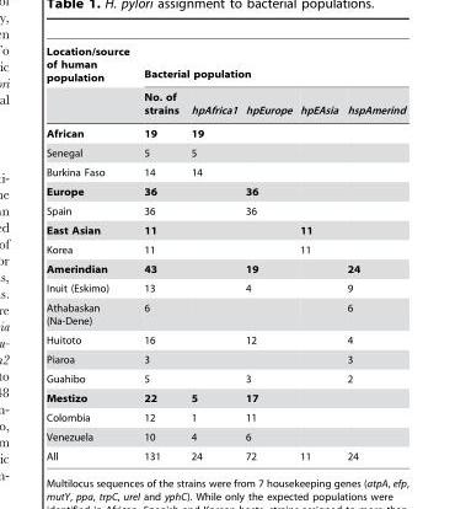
<table><thead><tr><td rowspan="2">Location/source of human population</td><td colspan="5">Bacterial population</td></tr><tr><td>No. of strains</td><td>hpAfrica1</td><td>hpEurope</td><td>hpEAsia</td><td>hspAmerind</td></tr></thead><tbody><tr><td>African</td><td>19</td><td>19</td><td></td><td></td><td></td></tr><tr><td>Senegal</td><td>5</td><td>5</td><td></td><td></td><td></td></tr><tr><td>Burkina Faso</td><td>14</td><td>14</td><td></td><td></td><td></td></tr><tr><td>Europe</td><td>36</td><td></td><td>36</td><td></td><td></td></tr><tr><td>Spain</td><td>36</td><td></td><td>36</td><td></td><td></td></tr><tr><td>East Asian</td><td>11</td><td></td><td></td><td>11</td><td></td></tr><tr><td>Korea</td><td>11</td><td></td><td></td><td>11</td><td></td></tr><tr><td>Amerindian</td><td>43</td><td></td><td>19</td><td></td><td>24</td></tr><tr><td>Inuit (Eskimo)</td><td>13</td><td></td><td>4</td><td></td><td>9</td></tr><tr><td>Athabaskan (Na-Dene)</td><td>6</td><td></td><td></td><td></td><td>6</td></tr><tr><td>Huitoto</td><td>16</td><td></td><td>12</td><td></td><td>4</td></tr><tr><td>Piaroa</td><td>3</td><td></td><td></td><td></td><td>3</td></tr><tr><td>Guahibo</td><td>5</td><td></td><td>3</td><td></td><td>2</td></tr><tr><td>Mestizo</td><td>22</td><td>5</td><td>17</td><td></td><td></td></tr><tr><td>Colombia</td><td>12</td><td>1</td><td>11</td><td></td><td></td></tr><tr><td>Venezuela</td><td>10</td><td>4</td><td>6</td><td></td><td></td></tr><tr><td>All</td><td>131</td><td>24</td><td>72</td><td>11</td><td>24</td></tr></tbody></table>